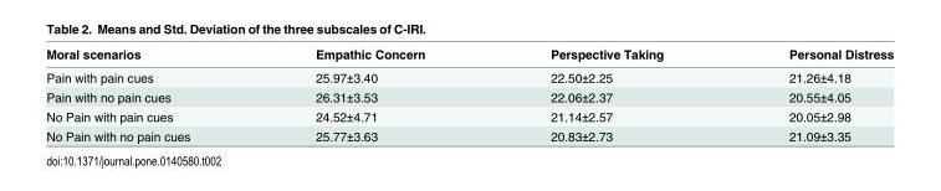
<table><thead><tr><td>Moral scenarios</td><td>Empathic Concern</td><td>Perspective Taking</td><td>Personal Distress</td></tr></thead><tbody><tr><td>Pain with pain cues</td><td>25.97±3.40</td><td>22.50±2.25</td><td>21.26±4.18</td></tr><tr><td>Pain with no pain cues</td><td>26.31±3.53</td><td>22.06±2.37</td><td>20.55±4.05</td></tr><tr><td>No Pain with pain cues</td><td>24.52±4.71</td><td>21.14±2.57</td><td>20.05±2.98</td></tr><tr><td>No Pain with no pain cues</td><td>25.77±3.63</td><td>20.83±2.73</td><td>21.09±3.35</td></tr></tbody></table>